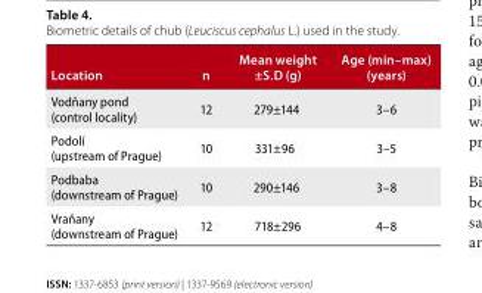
<table><thead><tr><td>location</td><td>n</td><td>Mean weight ±S.d (g)</td><td>age (min–max) (years)</td></tr></thead><tbody><tr><td>Vodňany pond (control locality)</td><td>12</td><td>279±144</td><td>3–6</td></tr><tr><td>Podolí (upstream of Prague)</td><td>10</td><td>331±96</td><td>3–5</td></tr><tr><td>Podbaba (downstream of Prague)</td><td>10</td><td>290±146</td><td>3–8</td></tr><tr><td>Vraňany (downstream of Prague)</td><td>12</td><td>718±296</td><td>4–8</td></tr></tbody></table>